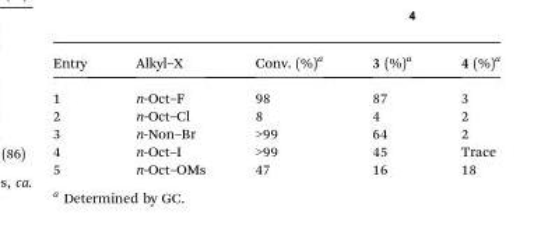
<table><thead><tr><td>Entry</td><td>Alkyl–X</td><td>Conv. (%)<sup>a</sup></td><td>3 (%)<sup>a</sup></td><td>4 (%)<sup>a</sup></td></tr></thead><tbody><tr><td>1</td><td>n-Oct–F</td><td>98</td><td>87</td><td>3</td></tr><tr><td>2</td><td>n-Oct–Cl</td><td>8</td><td>4</td><td>2</td></tr><tr><td>3</td><td>n-Non–Br</td><td>&gt;99</td><td>64</td><td>2</td></tr><tr><td>4</td><td>n-Oct–I</td><td>&gt;99</td><td>45</td><td>Trace</td></tr><tr><td>5</td><td>n-Oct–OMs</td><td>47</td><td>16</td><td>18</td></tr></tbody></table>